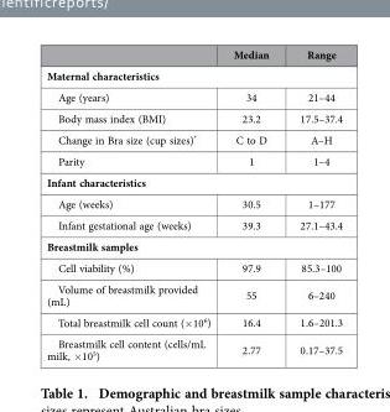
<table><thead><tr><td></td><td>Median</td><td>Range</td></tr></thead><tbody><tr><td colspan="3">Maternal characteristics</td></tr><tr><td>Age (years)</td><td>34</td><td>21–44</td></tr><tr><td>Body mass index (BMI)</td><td>23.2</td><td>17.5–37.4</td></tr><tr><td>Change in Bra size (cup sizes)*</td><td>C to D</td><td>A–H</td></tr><tr><td>Parity</td><td>1</td><td>1–4</td></tr><tr><td colspan="3">Infant characteristics</td></tr><tr><td>Age (weeks)</td><td>30.5</td><td>1–177</td></tr><tr><td>Infant gestational age (weeks)</td><td>39.3</td><td>27.1–43.4</td></tr><tr><td colspan="3">Breastmilk samples</td></tr><tr><td>Cell viability (%)</td><td>97.9</td><td>85.3–100</td></tr><tr><td>Volume of breastmilk provided (mL)</td><td>55</td><td>6–240</td></tr><tr><td>Total breastmilk cell count (×10<sup>6</sup>)</td><td>16.4</td><td>1.6–201.3</td></tr><tr><td>Breastmilk cell content (cells/mL milk, ×10<sup>5</sup>)</td><td>2.77</td><td>0.17–37.5</td></tr></tbody></table>